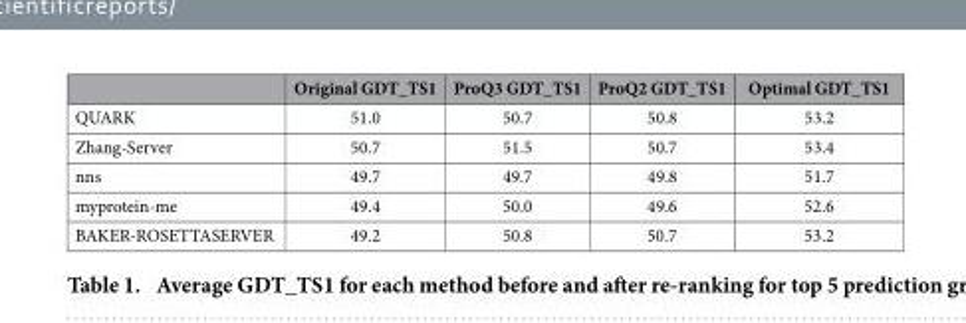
<table><thead><tr><td></td><td>Original GDT_TS1</td><td>ProQ3 GDT_TS1</td><td>ProQ2 GDT_TS1</td><td>Optimal GDT_TS1</td></tr></thead><tbody><tr><td>QUARK</td><td>51.0</td><td>50.7</td><td>50.8</td><td>53.2</td></tr><tr><td>Zhang-Server</td><td>50.7</td><td>51.5</td><td>50.7</td><td>53.4</td></tr><tr><td>nns</td><td>49.7</td><td>49.7</td><td>49.8</td><td>51.7</td></tr><tr><td>myprotein-me</td><td>49.4</td><td>50.0</td><td>49.6</td><td>52.6</td></tr><tr><td>BAKER-ROSETTASERVER</td><td>49.2</td><td>50.8</td><td>50.7</td><td>53.2</td></tr></tbody></table>